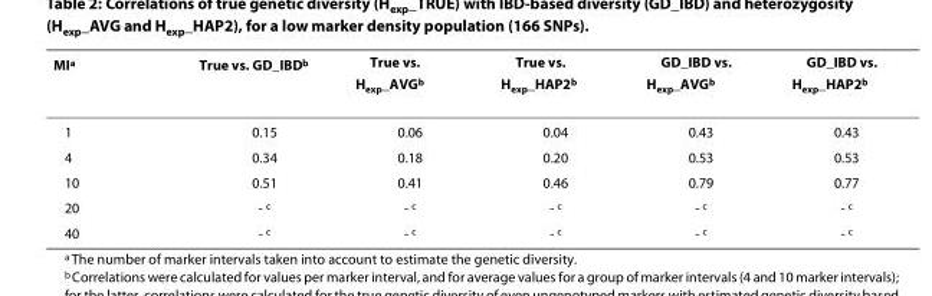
<table><thead><tr><td>MI<sup>a</sup></td><td>True vs. GD_IBD<sup>b</sup></td><td>True vs. Hexp_AVGb</td><td>True vs. Hexp_HAP2b</td><td>GD_IBD vs. Hexp_AVGb</td><td>GD_IBD vs. Hexp_HAP2b</td></tr></thead><tbody><tr><td>1</td><td>0.15</td><td>0.06</td><td>0.04</td><td>0.43</td><td>0.43</td></tr><tr><td>4</td><td>0.34</td><td>0.18</td><td>0.20</td><td>0.53</td><td>0.53</td></tr><tr><td>10</td><td>0.51</td><td>0.41</td><td>0.46</td><td>0.79</td><td>0.77</td></tr><tr><td>20</td><td>- <sup>c</sup></td><td>- <sup>c</sup></td><td>- <sup>c</sup></td><td>- <sup>c</sup></td><td>- <sup>c</sup></td></tr><tr><td>40</td><td>- <sup>c</sup></td><td>- <sup>c</sup></td><td>- <sup>c</sup></td><td>- <sup>c</sup></td><td>- <sup>c</sup></td></tr></tbody></table>